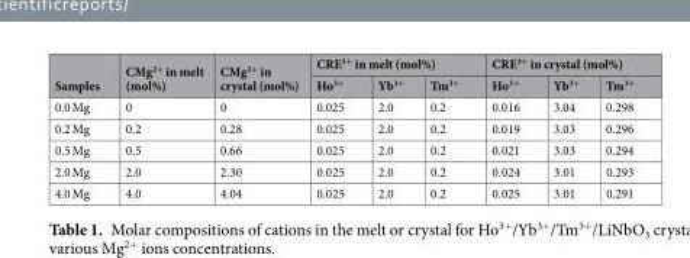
<table><thead><tr><td rowspan="2">Samples</td><td rowspan="2">CMg<sup>2+</sup> in melt (mol%)</td><td rowspan="2">CMg<sup>2+</sup> in crystal (mol%)</td><td colspan="3">CRE<sup>3+</sup> in melt (mol%)</td><td colspan="3">CRE<sup>3+</sup> in crystal (mol%)</td></tr><tr><td>Ho<sup>3+</sup></td><td>Yb<sup>3+</sup></td><td>Tm<sup>3+</sup></td><td>Ho<sup>3+</sup></td><td>Yb<sup>3+</sup></td><td>Tm<sup>3+</sup></td></tr></thead><tbody><tr><td>0.0 Mg</td><td>0</td><td>0</td><td>0.025</td><td>2.0</td><td>0.2</td><td>0.016</td><td>3.04</td><td>0.298</td></tr><tr><td>0.2 Mg</td><td>0.2</td><td>0.28</td><td>0.025</td><td>2.0</td><td>0.2</td><td>0.019</td><td>3.03</td><td>0.296</td></tr><tr><td>0.5 Mg</td><td>0.5</td><td>0.66</td><td>0.025</td><td>2.0</td><td>0.2</td><td>0.021</td><td>3.03</td><td>0.294</td></tr><tr><td>2.0 Mg</td><td>2.0</td><td>2.30</td><td>0.025</td><td>2.0</td><td>0.2</td><td>0.024</td><td>3.01</td><td>0.293</td></tr><tr><td>4.0 Mg</td><td>4.0</td><td>4.04</td><td>0.025</td><td>2.0</td><td>0.2</td><td>0.025</td><td>3.01</td><td>0.291</td></tr></tbody></table>